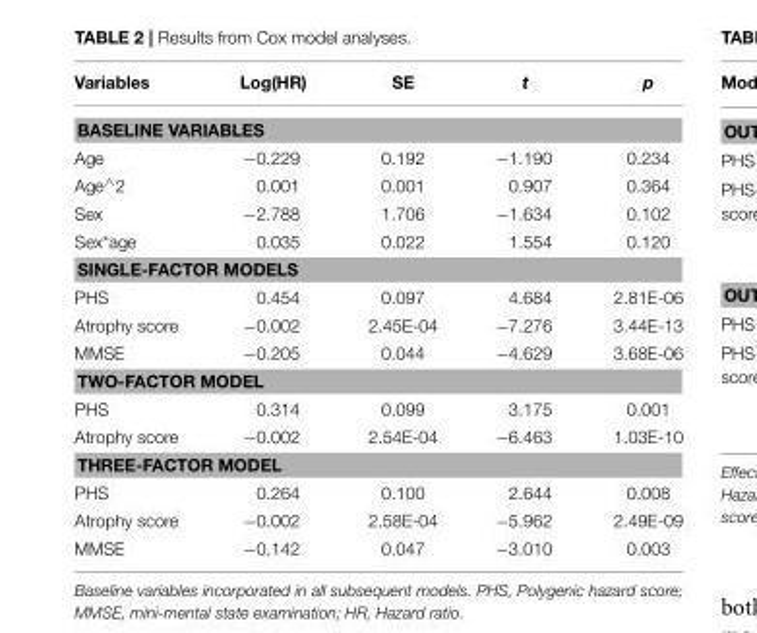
<table><thead><tr><td>Variables</td><td>Log(HR)</td><td>SE</td><td>t</td><td>p</td></tr></thead><tbody><tr><td colspan="5">BASELINE VARIABLES</td></tr><tr><td>Age</td><td>−0.229</td><td>0.192</td><td>−1.190</td><td>0.234</td></tr><tr><td>Age<sup>∧</sup>2</td><td>0.001</td><td>0.001</td><td>0.907</td><td>0.364</td></tr><tr><td>Sex</td><td>−2.788</td><td>1.706</td><td>−1.634</td><td>0.102</td></tr><tr><td>Sex*age</td><td>0.035</td><td>0.022</td><td>1.554</td><td>0.120</td></tr><tr><td colspan="5">SINGLE-FACTOR MODELS</td></tr><tr><td>PHS</td><td>0.454</td><td>0.097</td><td>4.684</td><td>2.81E-06</td></tr><tr><td>Atrophy score</td><td>−0.002</td><td>2.45E-04</td><td>−7.276</td><td>3.44E-13</td></tr><tr><td>MMSE</td><td>−0.205</td><td>0.044</td><td>−4.629</td><td>3.68E-06</td></tr><tr><td colspan="5">TWO-FACTOR MODEL</td></tr><tr><td>PHS</td><td>0.314</td><td>0.099</td><td>3.175</td><td>0.001</td></tr><tr><td>Atrophy score</td><td>−0.002</td><td>2.54E-04</td><td>−6.463</td><td>1.03E-10</td></tr><tr><td colspan="5">THREE-FACTOR MODEL</td></tr><tr><td>PHS</td><td>0.264</td><td>0.100</td><td>2.644</td><td>0.008</td></tr><tr><td>Atrophy score</td><td>−0.002</td><td>2.58E-04</td><td>−5.962</td><td>2.49E-09</td></tr><tr><td>MMSE</td><td>−0.142</td><td>0.047</td><td>−3.010</td><td>0.003</td></tr></tbody></table>